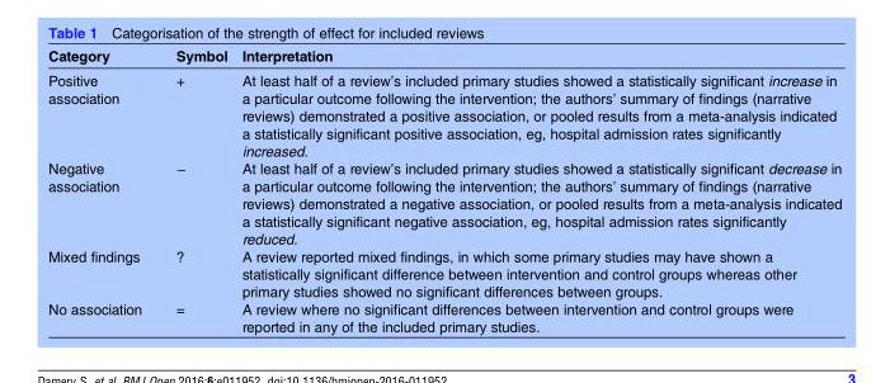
<table><thead><tr><td>Category</td><td>Symbol</td><td>Interpretation</td></tr></thead><tbody><tr><td>Positive association</td><td>+</td><td>At least half of a review’s included primary studies showed a statistically significant increase in a particular outcome following the intervention; the authors’ summary of findings (narrative reviews) demonstrated a positive association, or pooled results from a meta-analysis indicated a statistically significant positive association, eg, hospital admission rates significantly increased.</td></tr><tr><td>Negative association</td><td>−</td><td>At least half of a review’s included primary studies showed a statistically significant decrease in a particular outcome following the intervention; the authors’ summary of findings (narrative reviews) demonstrated a negative association, or pooled results from a meta-analysis indicated a statistically significant negative association, eg, hospital admission rates significantly reduced.</td></tr><tr><td>Mixed findings</td><td>?</td><td>A review reported mixed findings, in which some primary studies may have shown a statistically significant difference between intervention and control groups whereas other primary studies showed no significant differences between groups.</td></tr><tr><td>No association</td><td>=</td><td>A review where no significant differences between intervention and control groups were reported in any of the included primary studies.</td></tr></tbody></table>